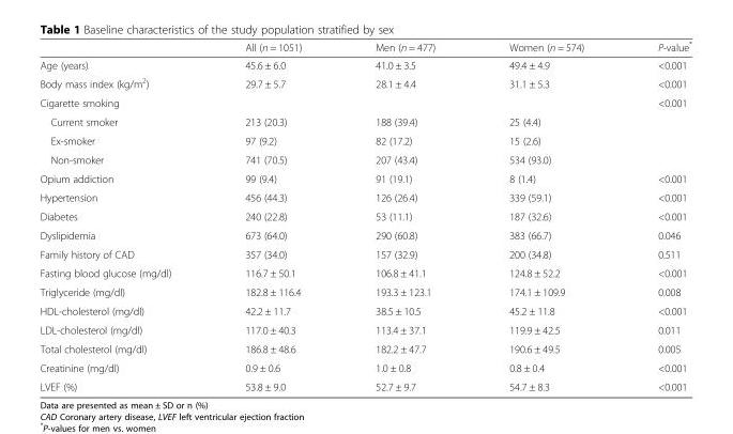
<table><thead><tr><td></td><td>All (n = 1051)</td><td>Men (n = 477)</td><td>Women (n = 574)</td><td>P-value*</td></tr></thead><tbody><tr><td>Age (years)</td><td>45.6 ± 6.0</td><td>41.0 ± 3.5</td><td>49.4 ± 4.9</td><td>&lt;0.001</td></tr><tr><td>Body mass index (kg/m<sup>2</sup>)</td><td>29.7 ± 5.7</td><td>28.1 ± 4.4</td><td>31.1 ± 5.3</td><td>&lt;0.001</td></tr><tr><td>Cigarette smoking</td><td></td><td></td><td></td><td>&lt;0.001</td></tr><tr><td>Current smoker</td><td>213 (20.3)</td><td>188 (39.4)</td><td>25 (4.4)</td><td></td></tr><tr><td>Ex-smoker</td><td>97 (9.2)</td><td>82 (17.2)</td><td>15 (2.6)</td><td></td></tr><tr><td>Non-smoker</td><td>741 (70.5)</td><td>207 (43.4)</td><td>534 (93.0)</td><td></td></tr><tr><td>Opium addiction</td><td>99 (9.4)</td><td>91 (19.1)</td><td>8 (1.4)</td><td>&lt;0.001</td></tr><tr><td>Hypertension</td><td>456 (44.3)</td><td>126 (26.4)</td><td>339 (59.1)</td><td>&lt;0.001</td></tr><tr><td>Diabetes</td><td>240 (22.8)</td><td>53 (11.1)</td><td>187 (32.6)</td><td>&lt;0.001</td></tr><tr><td>Dyslipidemia</td><td>673 (64.0)</td><td>290 (60.8)</td><td>383 (66.7)</td><td>0.046</td></tr><tr><td>Family history of CAD</td><td>357 (34.0)</td><td>157 (32.9)</td><td>200 (34.8)</td><td>0.511</td></tr><tr><td>Fasting blood glucose (mg/dl)</td><td>116.7 ± 50.1</td><td>106.8 ± 41.1</td><td>124.8 ± 52.2</td><td>&lt;0.001</td></tr><tr><td>Triglyceride (mg/dl)</td><td>182.8 ± 116.4</td><td>193.3 ± 123.1</td><td>174.1 ± 109.9</td><td>0.008</td></tr><tr><td>HDL-cholesterol (mg/dl)</td><td>42.2 ± 11.7</td><td>38.5 ± 10.5</td><td>45.2 ± 11.8</td><td>&lt;0.001</td></tr><tr><td>LDL-cholesterol (mg/dl)</td><td>117.0 ± 40.3</td><td>113.4 ± 37.1</td><td>119.9 ± 42.5</td><td>0.011</td></tr><tr><td>Total cholesterol (mg/dl)</td><td>186.8 ± 48.6</td><td>182.2 ± 47.7</td><td>190.6 ± 49.5</td><td>0.005</td></tr><tr><td>Creatinine (mg/dl)</td><td>0.9 ± 0.6</td><td>1.0 ± 0.8</td><td>0.8 ± 0.4</td><td>&lt;0.001</td></tr><tr><td>LVEF (%)</td><td>53.8 ± 9.0</td><td>52.7 ± 9.7</td><td>54.7 ± 8.3</td><td>&lt;0.001</td></tr></tbody></table>